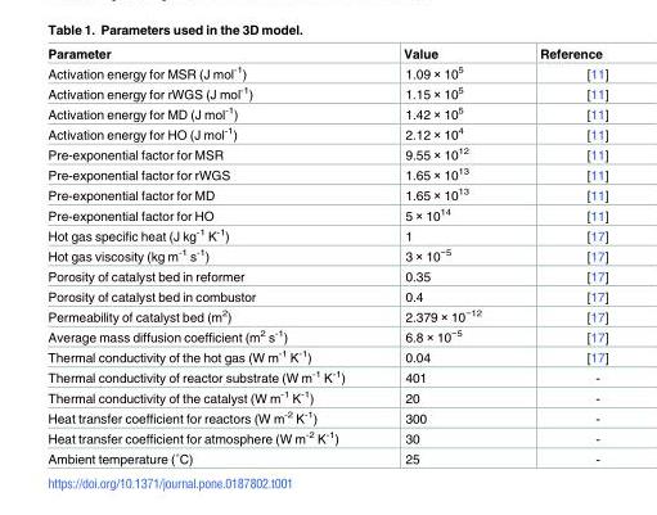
<table><thead><tr><td>Parameter</td><td>Value</td><td>Reference</td></tr></thead><tbody><tr><td>Activation energy for MSR (J mol<sup>-1</sup>)</td><td>1.09 × 10<sup>5</sup></td><td>[11]</td></tr><tr><td>Activation energy for rWGS (J mol<sup>-1</sup>)</td><td>1.15 × 10<sup>5</sup></td><td>[11]</td></tr><tr><td>Activation energy for MD (J mol<sup>-1</sup>)</td><td>1.42 × 10<sup>5</sup></td><td>[11]</td></tr><tr><td>Activation energy for HO (J mol<sup>-1</sup>)</td><td>2.12 × 10<sup>4</sup></td><td>[11]</td></tr><tr><td>Pre-exponential factor for MSR</td><td>9.55 × 10<sup>12</sup></td><td>[11]</td></tr><tr><td>Pre-exponential factor for rWGS</td><td>1.65 × 10<sup>13</sup></td><td>[11]</td></tr><tr><td>Pre-exponential factor for MD</td><td>1.65 × 10<sup>13</sup></td><td>[11]</td></tr><tr><td>Pre-exponential factor for HO</td><td>5 × 10<sup>14</sup></td><td>[11]</td></tr><tr><td>Hot gas specific heat (J kg<sup>-1</sup> K<sup>-1</sup>)</td><td>1</td><td>[17]</td></tr><tr><td>Hot gas viscosity (kg m<sup>-1</sup> s<sup>-1</sup>)</td><td>3 × 10<sup>−5</sup></td><td>[17]</td></tr><tr><td>Porosity of catalyst bed in reformer</td><td>0.35</td><td>[17]</td></tr><tr><td>Porosity of catalyst bed in combustor</td><td>0.4</td><td>[17]</td></tr><tr><td>Permeability of catalyst bed (m<sup>2</sup>)</td><td>2.379 × 10<sup>−12</sup></td><td>[17]</td></tr><tr><td>Average mass diffusion coefficient (m<sup>2</sup> s<sup>-1</sup>)</td><td>6.8 × 10<sup>−5</sup></td><td>[17]</td></tr><tr><td>Thermal conductivity of the hot gas (W m<sup>-1</sup> K<sup>-1</sup>)</td><td>0.04</td><td>[17]</td></tr><tr><td>Thermal conductivity of reactor substrate (W m<sup>-1</sup> K<sup>-1</sup>)</td><td>401</td><td>-</td></tr><tr><td>Thermal conductivity of the catalyst (W m<sup>-1</sup> K<sup>-1</sup>)</td><td>20</td><td>-</td></tr><tr><td>Heat transfer coefficient for reactors (W m<sup>-2</sup> K<sup>-1</sup>)</td><td>300</td><td>-</td></tr><tr><td>Heat transfer coefficient for atmosphere (W m<sup>-2</sup> K<sup>-1</sup>)</td><td>30</td><td>-</td></tr><tr><td>Ambient temperature (˚C)</td><td>25</td><td>-</td></tr></tbody></table>